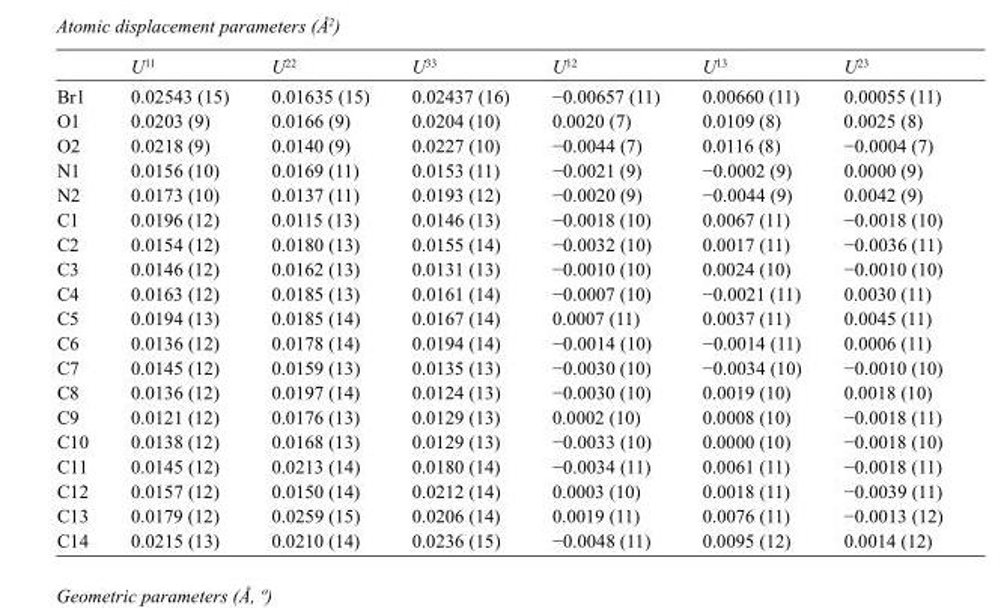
<table><thead><tr><td></td><td>U<sup>11</sup></td><td>U<sup>22</sup></td><td>U<sup>33</sup></td><td>U<sup>12</sup></td><td>U<sup>13</sup></td><td>U<sup>23</sup></td></tr></thead><tbody><tr><td>Br1</td><td>0.02543 (15)</td><td>0.01635 (15)</td><td>0.02437 (16)</td><td>−0.00657 (11)</td><td>0.00660 (11)</td><td>0.00055 (11)</td></tr><tr><td>O1</td><td>0.0203 (9)</td><td>0.0166 (9)</td><td>0.0204 (10)</td><td>0.0020 (7)</td><td>0.0109 (8)</td><td>0.0025 (8)</td></tr><tr><td>O2</td><td>0.0218 (9)</td><td>0.0140 (9)</td><td>0.0227 (10)</td><td>−0.0044 (7)</td><td>0.0116 (8)</td><td>−0.0004 (7)</td></tr><tr><td>N1</td><td>0.0156 (10)</td><td>0.0169 (11)</td><td>0.0153 (11)</td><td>−0.0021 (9)</td><td>−0.0002 (9)</td><td>0.0000 (9)</td></tr><tr><td>N2</td><td>0.0173 (10)</td><td>0.0137 (11)</td><td>0.0193 (12)</td><td>−0.0020 (9)</td><td>−0.0044 (9)</td><td>0.0042 (9)</td></tr><tr><td>C1</td><td>0.0196 (12)</td><td>0.0115 (13)</td><td>0.0146 (13)</td><td>−0.0018 (10)</td><td>0.0067 (11)</td><td>−0.0018 (10)</td></tr><tr><td>C2</td><td>0.0154 (12)</td><td>0.0180 (13)</td><td>0.0155 (14)</td><td>−0.0032 (10)</td><td>0.0017 (11)</td><td>−0.0036 (11)</td></tr><tr><td>C3</td><td>0.0146 (12)</td><td>0.0162 (13)</td><td>0.0131 (13)</td><td>−0.0010 (10)</td><td>0.0024 (10)</td><td>−0.0010 (10)</td></tr><tr><td>C4</td><td>0.0163 (12)</td><td>0.0185 (13)</td><td>0.0161 (14)</td><td>−0.0007 (10)</td><td>−0.0021 (11)</td><td>0.0030 (11)</td></tr><tr><td>C5</td><td>0.0194 (13)</td><td>0.0185 (14)</td><td>0.0167 (14)</td><td>0.0007 (11)</td><td>0.0037 (11)</td><td>0.0045 (11)</td></tr><tr><td>C6</td><td>0.0136 (12)</td><td>0.0178 (14)</td><td>0.0194 (14)</td><td>−0.0014 (10)</td><td>−0.0014 (11)</td><td>0.0006 (11)</td></tr><tr><td>C7</td><td>0.0145 (12)</td><td>0.0159 (13)</td><td>0.0135 (13)</td><td>−0.0030 (10)</td><td>−0.0034 (10)</td><td>−0.0010 (10)</td></tr><tr><td>C8</td><td>0.0136 (12)</td><td>0.0197 (14)</td><td>0.0124 (13)</td><td>−0.0030 (10)</td><td>0.0019 (10)</td><td>0.0018 (10)</td></tr><tr><td>C9</td><td>0.0121 (12)</td><td>0.0176 (13)</td><td>0.0129 (13)</td><td>0.0002 (10)</td><td>0.0008 (10)</td><td>−0.0018 (11)</td></tr><tr><td>C10</td><td>0.0138 (12)</td><td>0.0168 (13)</td><td>0.0129 (13)</td><td>−0.0033 (10)</td><td>0.0000 (10)</td><td>−0.0018 (10)</td></tr><tr><td>C11</td><td>0.0145 (12)</td><td>0.0213 (14)</td><td>0.0180 (14)</td><td>−0.0034 (11)</td><td>0.0061 (11)</td><td>−0.0018 (11)</td></tr><tr><td>C12</td><td>0.0157 (12)</td><td>0.0150 (14)</td><td>0.0212 (14)</td><td>0.0003 (10)</td><td>0.0018 (11)</td><td>−0.0039 (11)</td></tr><tr><td>C13</td><td>0.0179 (12)</td><td>0.0259 (15)</td><td>0.0206 (14)</td><td>0.0019 (11)</td><td>0.0076 (11)</td><td>−0.0013 (12)</td></tr><tr><td>C14</td><td>0.0215 (13)</td><td>0.0210 (14)</td><td>0.0236 (15)</td><td>−0.0048 (11)</td><td>0.0095 (12)</td><td>0.0014 (12)</td></tr></tbody></table>